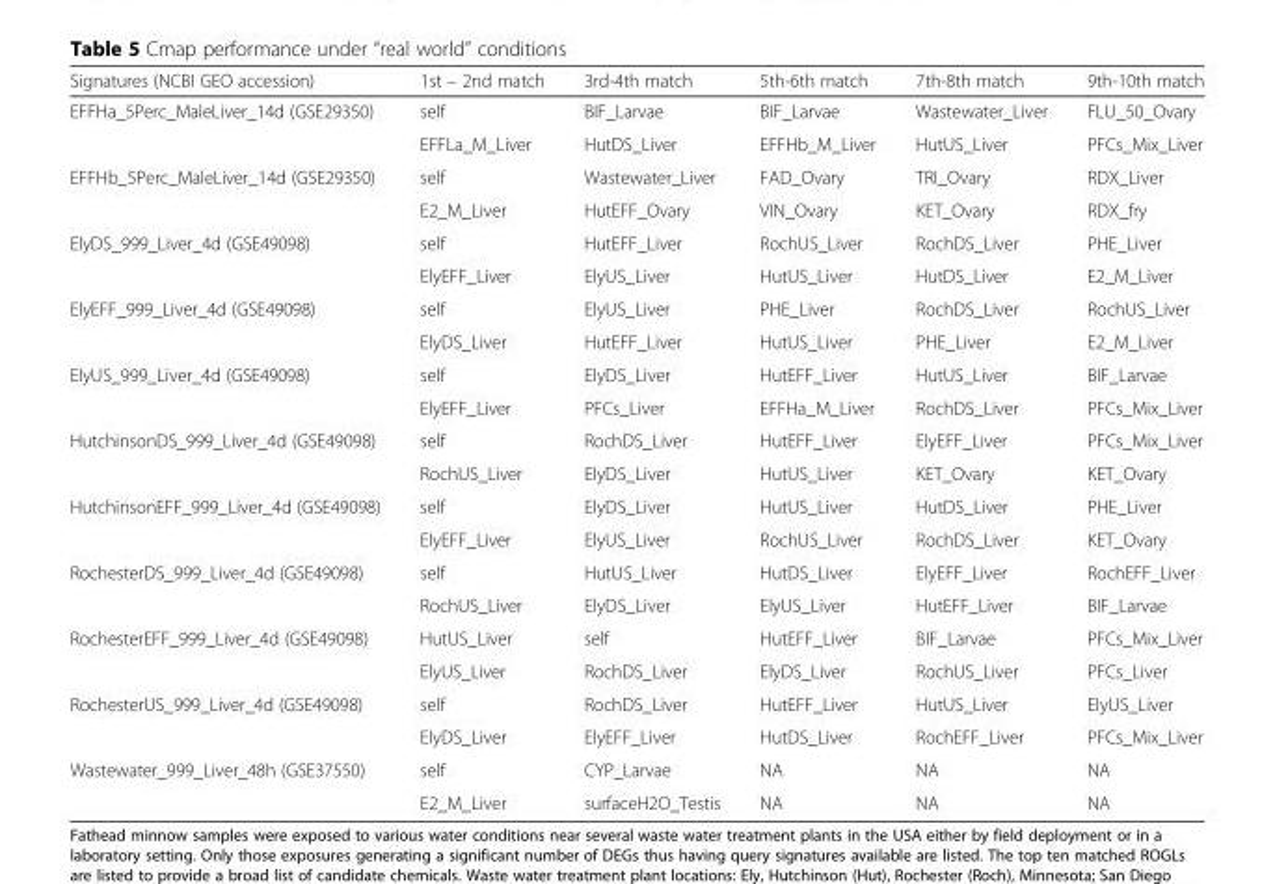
<table><thead><tr><td>Signatures (NCBI GEO accession)</td><td>1st – 2nd match</td><td>3rd-4th match</td><td>5th-6th match</td><td>7th-8th match</td><td>9th-10th match</td></tr></thead><tbody><tr><td rowspan="2">EFFHa_5Perc_MaleLiver_14d (GSE29350)</td><td>self</td><td>BIF_Larvae</td><td>BIF_Larvae</td><td>Wastewater_Liver</td><td>FLU_50_Ovary</td></tr><tr><td>EFFLa_M_Liver</td><td>HutDS_Liver</td><td>EFFHb_M_Liver</td><td>HutUS_Liver</td><td>PFCs_Mix_Liver</td></tr><tr><td rowspan="2">EFFHb_5Perc_MaleLiver_14d (GSE29350)</td><td>self</td><td>Wastewater_Liver</td><td>FAD_Ovary</td><td>TRI_Ovary</td><td>RDX_Liver</td></tr><tr><td>E2_M_Liver</td><td>HutEFF_Ovary</td><td>VIN_Ovary</td><td>KET_Ovary</td><td>RDX_fry</td></tr><tr><td rowspan="2">ElyDS_999_Liver_4d (GSE49098)</td><td>self</td><td>HutEFF_Liver</td><td>RochUS_Liver</td><td>RochDS_Liver</td><td>PHE_Liver</td></tr><tr><td>ElyEFF_Liver</td><td>ElyUS_Liver</td><td>HutUS_Liver</td><td>HutDS_Liver</td><td>E2_M_Liver</td></tr><tr><td rowspan="2">ElyEFF_999_Liver_4d (GSE49098)</td><td>self</td><td>ElyUS_Liver</td><td>PHE_Liver</td><td>RochDS_Liver</td><td>RochUS_Liver</td></tr><tr><td>ElyDS_Liver</td><td>HutEFF_Liver</td><td>HutUS_Liver</td><td>PHE_Liver</td><td>E2_M_Liver</td></tr><tr><td rowspan="2">ElyUS_999_Liver_4d (GSE49098)</td><td>self</td><td>ElyDS_Liver</td><td>HutEFF_Liver</td><td>HutUS_Liver</td><td>BIF_Larvae</td></tr><tr><td>ElyEFF_Liver</td><td>PFCs_Liver</td><td>EFFHa_M_Liver</td><td>RochDS_Liver</td><td>PFCs_Mix_Liver</td></tr><tr><td rowspan="2">HutchinsonDS_999_Liver_4d (GSE49098)</td><td>self</td><td>RochDS_Liver</td><td>HutEFF_Liver</td><td>ElyEFF_Liver</td><td>PFCs_Mix_Liver</td></tr><tr><td>RochUS_Liver</td><td>ElyDS_Liver</td><td>HutUS_Liver</td><td>KET_Ovary</td><td>KET_Ovary</td></tr><tr><td rowspan="2">HutchinsonEFF_999_Liver_4d (GSE49098)</td><td>self</td><td>ElyDS_Liver</td><td>HutUS_Liver</td><td>HutDS_Liver</td><td>PHE_Liver</td></tr><tr><td>ElyEFF_Liver</td><td>ElyUS_Liver</td><td>RochUS_Liver</td><td>RochDS_Liver</td><td>KET_Ovary</td></tr><tr><td rowspan="2">RochesterDS_999_Liver_4d (GSE49098)</td><td>self</td><td>HutUS_Liver</td><td>HutDS_Liver</td><td>ElyEFF_Liver</td><td>RochEFF_Liver</td></tr><tr><td>RochUS_Liver</td><td>ElyDS_Liver</td><td>ElyUS_Liver</td><td>HutEFF_Liver</td><td>BIF_Larvae</td></tr><tr><td rowspan="2">RochesterEFF_999_Liver_4d (GSE49098)</td><td>HutUS_Liver</td><td>self</td><td>HutEFF_Liver</td><td>BIF_Larvae</td><td>PFCs_Mix_Liver</td></tr><tr><td>ElyUS_Liver</td><td>RochDS_Liver</td><td>ElyDS_Liver</td><td>RochUS_Liver</td><td>PFCs_Liver</td></tr><tr><td rowspan="2">RochesterUS_999_Liver_4d (GSE49098)</td><td>self</td><td>RochDS_Liver</td><td>HutEFF_Liver</td><td>HutUS_Liver</td><td>ElyUS_Liver</td></tr><tr><td>ElyDS_Liver</td><td>ElyEFF_Liver</td><td>HutDS_Liver</td><td>RochEFF_Liver</td><td>PFCs_Mix_Liver</td></tr><tr><td rowspan="2">Wastewater_999_Liver_48h (GSE37550)</td><td>self</td><td>CYP_Larvae</td><td>NA</td><td>NA</td><td>NA</td></tr><tr><td>E2_M_Liver</td><td>surfaceH2O_Testis</td><td>NA</td><td>NA</td><td>NA</td></tr></tbody></table>